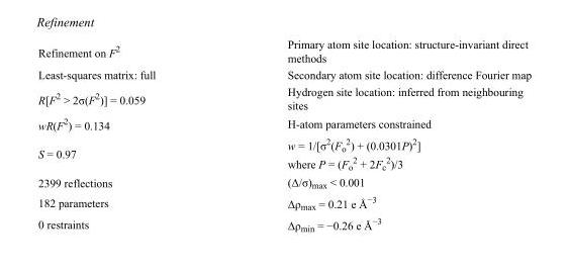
<table><tbody><tr><td>Refinement on F<sup>2</sup></td><td>Primary atom site location: structure-invariant direct methods</td></tr><tr><td>Least-squares matrix: full</td><td>Secondary atom site location: difference Fourier map</td></tr><tr><td>R[F<sup>2</sup> &gt; 2σ(F<sup>2</sup>)] = 0.059</td><td>Hydrogen site location: inferred from neighbouring sites</td></tr><tr><td>wR(F<sup>2</sup>) = 0.134</td><td>H-atom parameters constrained</td></tr><tr><td>S = 0.97</td><td>w = 1/[σ<sup>2</sup>(F<sub>o</sub> <sup>2</sup>) + (0.0301P)<sup>2</sup>] where P = (F<sub>o</sub> <sup>2</sup> + 2F<sub>c</sub> <sup>2</sup>)/3</td></tr><tr><td>2399 reflections</td><td>(Δ/σ)<sub>max</sub> &lt; 0.001</td></tr><tr><td>182 parameters</td><td>Δρ<sub>max</sub> = 0.21 e Å<sup>−3</sup></td></tr><tr><td>0 restraints</td><td>Δρ<sub>min</sub> = −0.26 e Å<sup>−3</sup></td></tr></tbody></table>